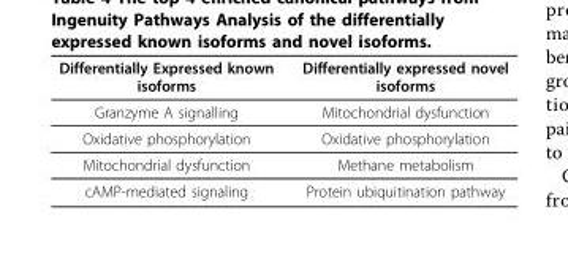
<table><thead><tr><td>Differentially Expressed known isoforms</td><td>Differentially expressed novel isoforms</td></tr></thead><tbody><tr><td>Granzyme A signalling</td><td>Mitochondrial dysfunction</td></tr><tr><td>Oxidative phosphorylation</td><td>Oxidative phosphorylation</td></tr><tr><td>Mitochondrial dysfunction</td><td>Methane metabolism</td></tr><tr><td>cAMP-mediated signaling</td><td>Protein ubiquitination pathway</td></tr></tbody></table>